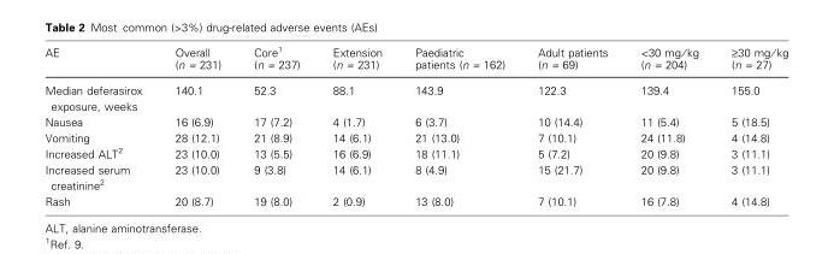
<table><thead><tr><td>AE</td><td>Overall (n = 231)</td><td>Core<sup>1</sup> (n = 237)</td><td>Extension (n = 231)</td><td>Paediatric patients (n = 162)</td><td>Adult patients (n = 69)</td><td>&lt;30 mg ⁄ kg (n = 204)</td><td>‡30 mg ⁄ kg (n = 27)</td></tr></thead><tbody><tr><td>Median deferasirox exposure, weeks</td><td>140.1</td><td>52.3</td><td>88.1</td><td>143.9</td><td>122.3</td><td>139.4</td><td>155.0</td></tr><tr><td>Nausea</td><td>16 (6.9)</td><td>17 (7.2)</td><td>4 (1.7)</td><td>6 (3.7)</td><td>10 (14.4)</td><td>11 (5.4)</td><td>5 (18.5)</td></tr><tr><td>Vomiting</td><td>28 (12.1)</td><td>21 (8.9)</td><td>14 (6.1)</td><td>21 (13.0)</td><td>7 (10.1)</td><td>24 (11.8)</td><td>4 (14.8)</td></tr><tr><td>Increased ALT<sup>2</sup></td><td>23 (10.0)</td><td>13 (5.5)</td><td>16 (6.9)</td><td>18 (11.1)</td><td>5 (7.2)</td><td>20 (9.8)</td><td>3 (11.1)</td></tr><tr><td>Increased serum creatinine<sup>2</sup></td><td>23 (10.0)</td><td>9 (3.8)</td><td>14 (6.1)</td><td>8 (4.9)</td><td>15 (21.7)</td><td>20 (9.8)</td><td>3 (11.1)</td></tr><tr><td>Rash</td><td>20 (8.7)</td><td>19 (8.0)</td><td>2 (0.9)</td><td>13 (8.0)</td><td>7 (10.1)</td><td>16 (7.8)</td><td>4 (14.8)</td></tr></tbody></table>